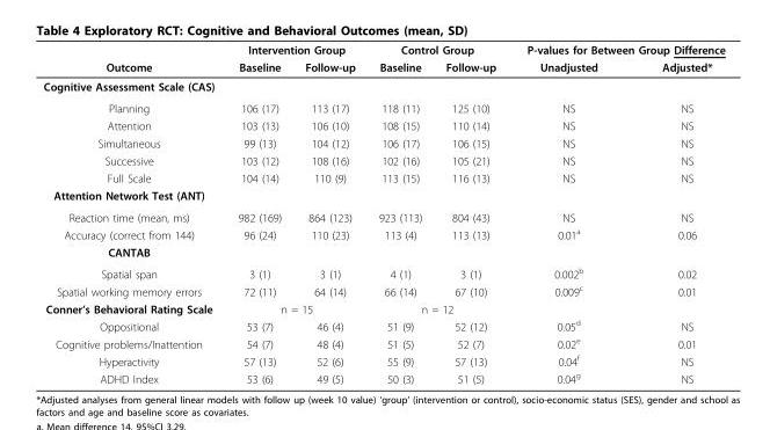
<table><thead><tr><td rowspan="2">Outcome</td><td colspan="2">Intervention Group</td><td colspan="2">Control Group</td><td colspan="2">P-values for Between Group Difference</td></tr><tr><td>Baseline</td><td>Follow-up</td><td>Baseline</td><td>Follow-up</td><td>Unadjusted</td><td>Adjusted*</td></tr></thead><tbody><tr><td colspan="7">Cognitive Assessment Scale (CAS)</td></tr><tr><td>Planning</td><td>106 (17)</td><td>113 (17)</td><td>118 (11)</td><td>125 (10)</td><td>NS</td><td>NS</td></tr><tr><td>Attention</td><td>103 (13)</td><td>106 (10)</td><td>108 (15)</td><td>110 (14)</td><td>NS</td><td>NS</td></tr><tr><td>Simultaneous</td><td>99 (13)</td><td>104 (12)</td><td>106 (17)</td><td>106 (15)</td><td>NS</td><td>NS</td></tr><tr><td>Successive</td><td>103 (12)</td><td>108 (16)</td><td>102 (16)</td><td>105 (21)</td><td>NS</td><td>NS</td></tr><tr><td>Full Scale</td><td>104 (14)</td><td>110 (9)</td><td>113 (15)</td><td>116 (13)</td><td>NS</td><td>NS</td></tr><tr><td colspan="7">Attention Network Test (ANT)</td></tr><tr><td>Reaction time (mean, ms)</td><td>982 (169)</td><td>864 (123)</td><td>923 (113)</td><td>804 (43)</td><td>NS</td><td>NS</td></tr><tr><td>Accuracy (correct from 144)</td><td>96 (24)</td><td>110 (23)</td><td>113 (4)</td><td>113 (13)</td><td>0.01<sup>a</sup></td><td>0.06</td></tr><tr><td colspan="7">CANTAB</td></tr><tr><td>Spatial span</td><td>3 (1)</td><td>3 (1)</td><td>4 (1)</td><td>3 (1)</td><td>0.002<sup>b</sup></td><td>0.02</td></tr><tr><td>Spatial working memory errors</td><td>72 (11)</td><td>64 (14)</td><td>66 (14)</td><td>67 (10)</td><td>0.009<sup>c</sup></td><td>0.01</td></tr><tr><td>Conner’s Behavioral Rating Scale</td><td colspan="2">n = 15</td><td colspan="2">n = 12</td><td></td><td></td></tr><tr><td>Oppositional</td><td>53 (7)</td><td>46 (4)</td><td>51 (9)</td><td>52 (12)</td><td>0.05<sup>d</sup></td><td>NS</td></tr><tr><td>Cognitive problems/Inattention</td><td>54 (7)</td><td>48 (4)</td><td>51 (5)</td><td>52 (7)</td><td>0.02<sup>e</sup></td><td>0.01</td></tr><tr><td>Hyperactivity</td><td>57 (13)</td><td>52 (6)</td><td>55 (9)</td><td>57 (13)</td><td>0.04<sup>f</sup></td><td>NS</td></tr><tr><td>ADHD Index</td><td>53 (6)</td><td>49 (5)</td><td>50 (3)</td><td>51 (5)</td><td>0.04<sup>g</sup></td><td>NS</td></tr></tbody></table>